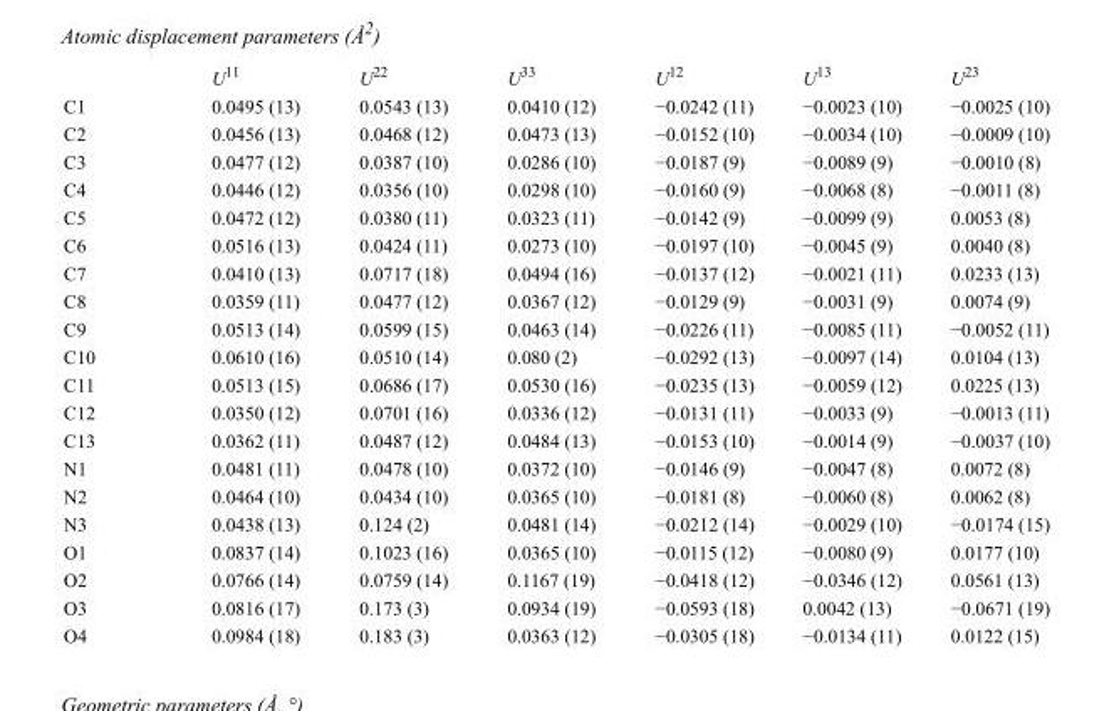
<table><thead><tr><td></td><td>U<sup>11</sup></td><td>U<sup>22</sup></td><td>U<sup>33</sup></td><td>U<sup>12</sup></td><td>U<sup>13</sup></td><td>U<sup>23</sup></td></tr></thead><tbody><tr><td>C1</td><td>0.0495 (13)</td><td>0.0543 (13)</td><td>0.0410 (12)</td><td>−0.0242 (11)</td><td>−0.0023 (10)</td><td>−0.0025 (10)</td></tr><tr><td>C2</td><td>0.0456 (13)</td><td>0.0468 (12)</td><td>0.0473 (13)</td><td>−0.0152 (10)</td><td>−0.0034 (10)</td><td>−0.0009 (10)</td></tr><tr><td>C3</td><td>0.0477 (12)</td><td>0.0387 (10)</td><td>0.0286 (10)</td><td>−0.0187 (9)</td><td>−0.0089 (9)</td><td>−0.0010 (8)</td></tr><tr><td>C4</td><td>0.0446 (12)</td><td>0.0356 (10)</td><td>0.0298 (10)</td><td>−0.0160 (9)</td><td>−0.0068 (8)</td><td>−0.0011 (8)</td></tr><tr><td>C5</td><td>0.0472 (12)</td><td>0.0380 (11)</td><td>0.0323 (11)</td><td>−0.0142 (9)</td><td>−0.0099 (9)</td><td>0.0053 (8)</td></tr><tr><td>C6</td><td>0.0516 (13)</td><td>0.0424 (11)</td><td>0.0273 (10)</td><td>−0.0197 (10)</td><td>−0.0045 (9)</td><td>0.0040 (8)</td></tr><tr><td>C7</td><td>0.0410 (13)</td><td>0.0717 (18)</td><td>0.0494 (16)</td><td>−0.0137 (12)</td><td>−0.0021 (11)</td><td>0.0233 (13)</td></tr><tr><td>C8</td><td>0.0359 (11)</td><td>0.0477 (12)</td><td>0.0367 (12)</td><td>−0.0129 (9)</td><td>−0.0031 (9)</td><td>0.0074 (9)</td></tr><tr><td>C9</td><td>0.0513 (14)</td><td>0.0599 (15)</td><td>0.0463 (14)</td><td>−0.0226 (11)</td><td>−0.0085 (11)</td><td>−0.0052 (11)</td></tr><tr><td>C10</td><td>0.0610 (16)</td><td>0.0510 (14)</td><td>0.080 (2)</td><td>−0.0292 (13)</td><td>−0.0097 (14)</td><td>0.0104 (13)</td></tr><tr><td>C11</td><td>0.0513 (15)</td><td>0.0686 (17)</td><td>0.0530 (16)</td><td>−0.0235 (13)</td><td>−0.0059 (12)</td><td>0.0225 (13)</td></tr><tr><td>C12</td><td>0.0350 (12)</td><td>0.0701 (16)</td><td>0.0336 (12)</td><td>−0.0131 (11)</td><td>−0.0033 (9)</td><td>−0.0013 (11)</td></tr><tr><td>C13</td><td>0.0362 (11)</td><td>0.0487 (12)</td><td>0.0484 (13)</td><td>−0.0153 (10)</td><td>−0.0014 (9)</td><td>−0.0037 (10)</td></tr><tr><td>N1</td><td>0.0481 (11)</td><td>0.0478 (10)</td><td>0.0372 (10)</td><td>−0.0146 (9)</td><td>−0.0047 (8)</td><td>0.0072 (8)</td></tr><tr><td>N2</td><td>0.0464 (10)</td><td>0.0434 (10)</td><td>0.0365 (10)</td><td>−0.0181 (8)</td><td>−0.0060 (8)</td><td>0.0062 (8)</td></tr><tr><td>N3</td><td>0.0438 (13)</td><td>0.124 (2)</td><td>0.0481 (14)</td><td>−0.0212 (14)</td><td>−0.0029 (10)</td><td>−0.0174 (15)</td></tr><tr><td>O1</td><td>0.0837 (14)</td><td>0.1023 (16)</td><td>0.0365 (10)</td><td>−0.0115 (12)</td><td>−0.0080 (9)</td><td>0.0177 (10)</td></tr><tr><td>O2</td><td>0.0766 (14)</td><td>0.0759 (14)</td><td>0.1167 (19)</td><td>−0.0418 (12)</td><td>−0.0346 (12)</td><td>0.0561 (13)</td></tr><tr><td>O3</td><td>0.0816 (17)</td><td>0.173 (3)</td><td>0.0934 (19)</td><td>−0.0593 (18)</td><td>0.0042 (13)</td><td>−0.0671 (19)</td></tr><tr><td>O4</td><td>0.0984 (18)</td><td>0.183 (3)</td><td>0.0363 (12)</td><td>−0.0305 (18)</td><td>−0.0134 (11)</td><td>0.0122 (15)</td></tr></tbody></table>